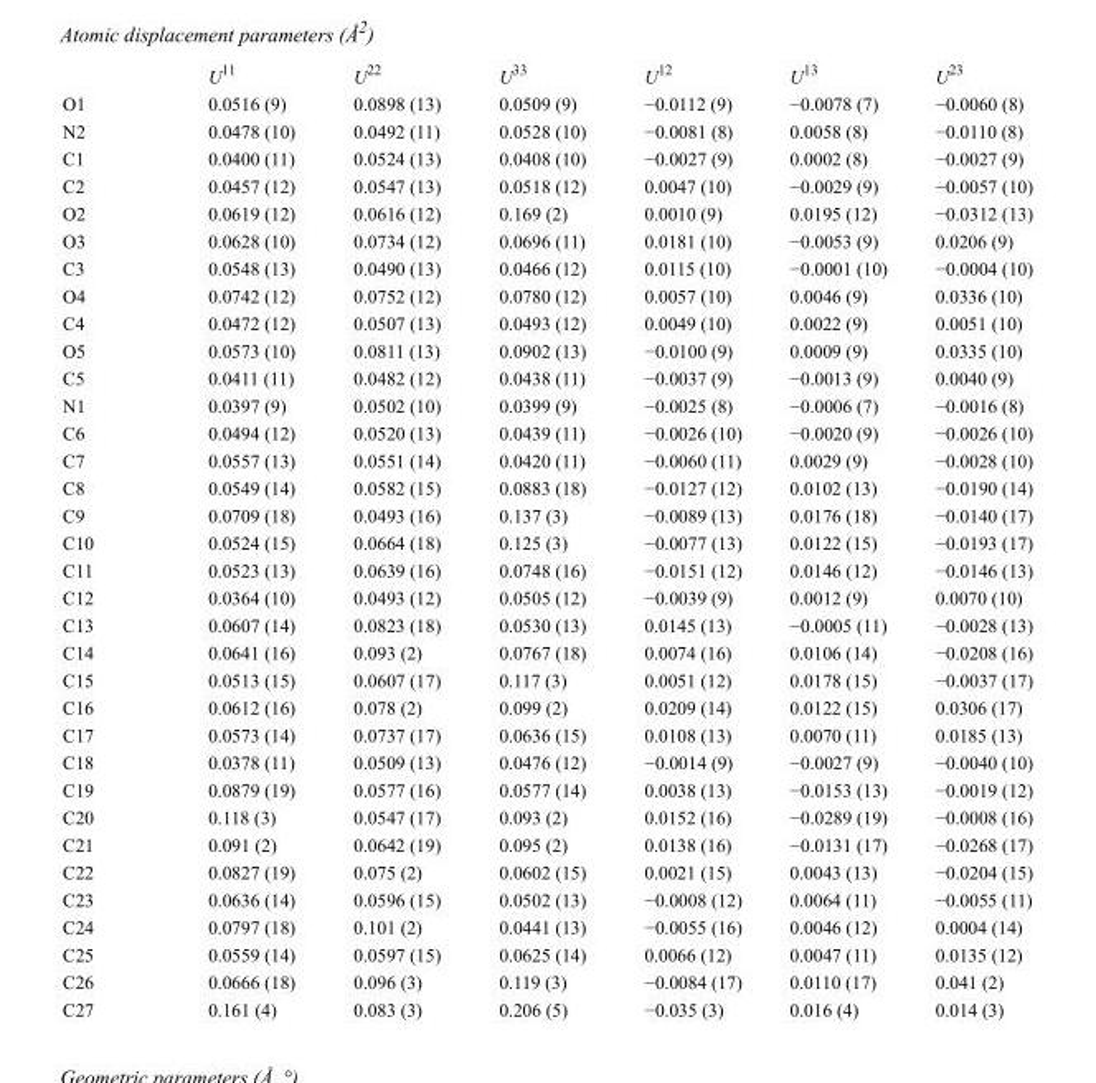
<table><thead><tr><td></td><td>U<sup>11</sup></td><td>U<sup>22</sup></td><td>U<sup>33</sup></td><td>U<sup>12</sup></td><td>U<sup>13</sup></td><td>U<sup>23</sup></td></tr></thead><tbody><tr><td>O1</td><td>0.0516 (9)</td><td>0.0898 (13)</td><td>0.0509 (9)</td><td>−0.0112 (9)</td><td>−0.0078 (7)</td><td>−0.0060 (8)</td></tr><tr><td>N2</td><td>0.0478 (10)</td><td>0.0492 (11)</td><td>0.0528 (10)</td><td>−0.0081 (8)</td><td>0.0058 (8)</td><td>−0.0110 (8)</td></tr><tr><td>C1</td><td>0.0400 (11)</td><td>0.0524 (13)</td><td>0.0408 (10)</td><td>−0.0027 (9)</td><td>0.0002 (8)</td><td>−0.0027 (9)</td></tr><tr><td>C2</td><td>0.0457 (12)</td><td>0.0547 (13)</td><td>0.0518 (12)</td><td>0.0047 (10)</td><td>−0.0029 (9)</td><td>−0.0057 (10)</td></tr><tr><td>O2</td><td>0.0619 (12)</td><td>0.0616 (12)</td><td>0.169 (2)</td><td>0.0010 (9)</td><td>0.0195 (12)</td><td>−0.0312 (13)</td></tr><tr><td>O3</td><td>0.0628 (10)</td><td>0.0734 (12)</td><td>0.0696 (11)</td><td>0.0181 (10)</td><td>−0.0053 (9)</td><td>0.0206 (9)</td></tr><tr><td>C3</td><td>0.0548 (13)</td><td>0.0490 (13)</td><td>0.0466 (12)</td><td>0.0115 (10)</td><td>−0.0001 (10)</td><td>−0.0004 (10)</td></tr><tr><td>O4</td><td>0.0742 (12)</td><td>0.0752 (12)</td><td>0.0780 (12)</td><td>0.0057 (10)</td><td>0.0046 (9)</td><td>0.0336 (10)</td></tr><tr><td>C4</td><td>0.0472 (12)</td><td>0.0507 (13)</td><td>0.0493 (12)</td><td>0.0049 (10)</td><td>0.0022 (9)</td><td>0.0051 (10)</td></tr><tr><td>O5</td><td>0.0573 (10)</td><td>0.0811 (13)</td><td>0.0902 (13)</td><td>−0.0100 (9)</td><td>0.0009 (9)</td><td>0.0335 (10)</td></tr><tr><td>C5</td><td>0.0411 (11)</td><td>0.0482 (12)</td><td>0.0438 (11)</td><td>−0.0037 (9)</td><td>−0.0013 (9)</td><td>0.0040 (9)</td></tr><tr><td>N1</td><td>0.0397 (9)</td><td>0.0502 (10)</td><td>0.0399 (9)</td><td>−0.0025 (8)</td><td>−0.0006 (7)</td><td>−0.0016 (8)</td></tr><tr><td>C6</td><td>0.0494 (12)</td><td>0.0520 (13)</td><td>0.0439 (11)</td><td>−0.0026 (10)</td><td>−0.0020 (9)</td><td>−0.0026 (10)</td></tr><tr><td>C7</td><td>0.0557 (13)</td><td>0.0551 (14)</td><td>0.0420 (11)</td><td>−0.0060 (11)</td><td>0.0029 (9)</td><td>−0.0028 (10)</td></tr><tr><td>C8</td><td>0.0549 (14)</td><td>0.0582 (15)</td><td>0.0883 (18)</td><td>−0.0127 (12)</td><td>0.0102 (13)</td><td>−0.0190 (14)</td></tr><tr><td>C9</td><td>0.0709 (18)</td><td>0.0493 (16)</td><td>0.137 (3)</td><td>−0.0089 (13)</td><td>0.0176 (18)</td><td>−0.0140 (17)</td></tr><tr><td>C10</td><td>0.0524 (15)</td><td>0.0664 (18)</td><td>0.125 (3)</td><td>−0.0077 (13)</td><td>0.0122 (15)</td><td>−0.0193 (17)</td></tr><tr><td>C11</td><td>0.0523 (13)</td><td>0.0639 (16)</td><td>0.0748 (16)</td><td>−0.0151 (12)</td><td>0.0146 (12)</td><td>−0.0146 (13)</td></tr><tr><td>C12</td><td>0.0364 (10)</td><td>0.0493 (12)</td><td>0.0505 (12)</td><td>−0.0039 (9)</td><td>0.0012 (9)</td><td>0.0070 (10)</td></tr><tr><td>C13</td><td>0.0607 (14)</td><td>0.0823 (18)</td><td>0.0530 (13)</td><td>0.0145 (13)</td><td>−0.0005 (11)</td><td>−0.0028 (13)</td></tr><tr><td>C14</td><td>0.0641 (16)</td><td>0.093 (2)</td><td>0.0767 (18)</td><td>0.0074 (16)</td><td>0.0106 (14)</td><td>−0.0208 (16)</td></tr><tr><td>C15</td><td>0.0513 (15)</td><td>0.0607 (17)</td><td>0.117 (3)</td><td>0.0051 (12)</td><td>0.0178 (15)</td><td>−0.0037 (17)</td></tr><tr><td>C16</td><td>0.0612 (16)</td><td>0.078 (2)</td><td>0.099 (2)</td><td>0.0209 (14)</td><td>0.0122 (15)</td><td>0.0306 (17)</td></tr><tr><td>C17</td><td>0.0573 (14)</td><td>0.0737 (17)</td><td>0.0636 (15)</td><td>0.0108 (13)</td><td>0.0070 (11)</td><td>0.0185 (13)</td></tr><tr><td>C18</td><td>0.0378 (11)</td><td>0.0509 (13)</td><td>0.0476 (12)</td><td>−0.0014 (9)</td><td>−0.0027 (9)</td><td>−0.0040 (10)</td></tr><tr><td>C19</td><td>0.0879 (19)</td><td>0.0577 (16)</td><td>0.0577 (14)</td><td>0.0038 (13)</td><td>−0.0153 (13)</td><td>−0.0019 (12)</td></tr><tr><td>C20</td><td>0.118 (3)</td><td>0.0547 (17)</td><td>0.093 (2)</td><td>0.0152 (16)</td><td>−0.0289 (19)</td><td>−0.0008 (16)</td></tr><tr><td>C21</td><td>0.091 (2)</td><td>0.0642 (19)</td><td>0.095 (2)</td><td>0.0138 (16)</td><td>−0.0131 (17)</td><td>−0.0268 (17)</td></tr><tr><td>C22</td><td>0.0827 (19)</td><td>0.075 (2)</td><td>0.0602 (15)</td><td>0.0021 (15)</td><td>0.0043 (13)</td><td>−0.0204 (15)</td></tr><tr><td>C23</td><td>0.0636 (14)</td><td>0.0596 (15)</td><td>0.0502 (13)</td><td>−0.0008 (12)</td><td>0.0064 (11)</td><td>−0.0055 (11)</td></tr><tr><td>C24</td><td>0.0797 (18)</td><td>0.101 (2)</td><td>0.0441 (13)</td><td>−0.0055 (16)</td><td>0.0046 (12)</td><td>0.0004 (14)</td></tr><tr><td>C25</td><td>0.0559 (14)</td><td>0.0597 (15)</td><td>0.0625 (14)</td><td>0.0066 (12)</td><td>0.0047 (11)</td><td>0.0135 (12)</td></tr><tr><td>C26</td><td>0.0666 (18)</td><td>0.096 (3)</td><td>0.119 (3)</td><td>−0.0084 (17)</td><td>0.0110 (17)</td><td>0.041 (2)</td></tr><tr><td>C27</td><td>0.161 (4)</td><td>0.083 (3)</td><td>0.206 (5)</td><td>−0.035 (3)</td><td>0.016 (4)</td><td>0.014 (3)</td></tr></tbody></table>